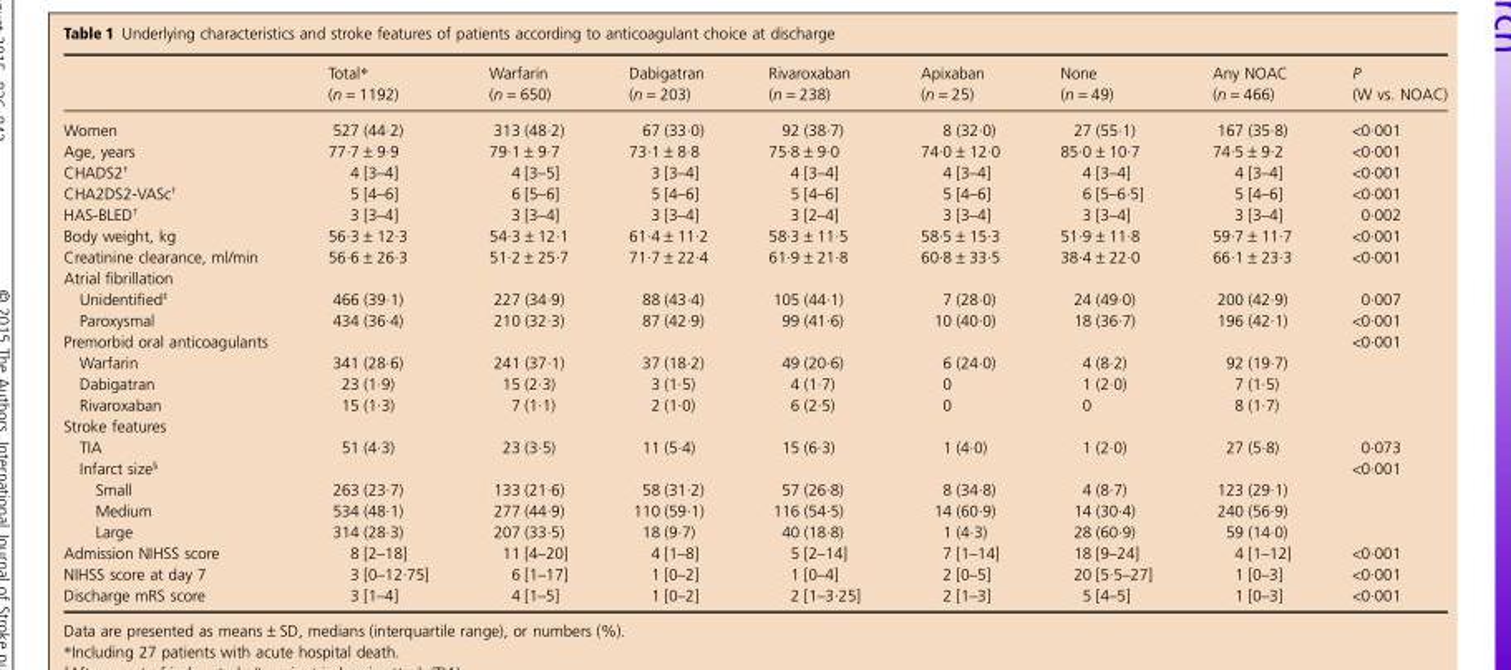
<table><thead><tr><td></td><td>Total* (n = 1192)</td><td>Warfarin (n = 650)</td><td>Dabigatran (n = 203)</td><td>Rivaroxaban (n = 238)</td><td>Apixaban (n = 25)</td><td>None (n = 49)</td><td>Any NOAC (n = 466)</td><td>P (W vs. NOAC)</td></tr></thead><tbody><tr><td>Women</td><td>527 (44·2)</td><td>313 (48·2)</td><td>67 (33·0)</td><td>92 (38·7)</td><td>8 (32·0)</td><td>27 (55·1)</td><td>167 (35·8)</td><td>&lt;0·001</td></tr><tr><td>Age, years</td><td>77·7 ± 9·9</td><td>79·1 ± 9·7</td><td>73·1 ± 8·8</td><td>75·8 ± 9·0</td><td>74·0 ± 12·0</td><td>85·0 ± 10·7</td><td>74·5 ± 9·2</td><td>&lt;0·001</td></tr><tr><td>CHADS2†</td><td>4 [3–4]</td><td>4 [3–5]</td><td>3 [3–4]</td><td>4 [3–4]</td><td>4 [3–4]</td><td>4 [3–4]</td><td>4 [3–4]</td><td>&lt;0·001</td></tr><tr><td>CHA2DS2-VASc†</td><td>5 [4–6]</td><td>6 [5–6]</td><td>5 [4–6]</td><td>5 [4–6]</td><td>5 [4–6]</td><td>6 [5–6·5]</td><td>5 [4–6]</td><td>&lt;0·001</td></tr><tr><td>HAS-BLED†</td><td>3 [3–4]</td><td>3 [3–4]</td><td>3 [3–4]</td><td>3 [2–4]</td><td>3 [3–4]</td><td>3 [3–4]</td><td>3 [3–4]</td><td>0·002</td></tr><tr><td>Body weight, kg</td><td>56·3 ± 12·3</td><td>54·3 ± 12·1</td><td>61·4 ± 11·2</td><td>58·3 ± 11·5</td><td>58·5 ± 15·3</td><td>51·9 ± 11·8</td><td>59·7 ± 11·7</td><td>&lt;0·001</td></tr><tr><td>Creatinine clearance, ml/min</td><td>56·6 ± 26·3</td><td>51·2 ± 25·7</td><td>71·7 ± 22·4</td><td>61·9 ± 21·8</td><td>60·8 ± 33·5</td><td>38·4 ± 22·0</td><td>66·1 ± 23·3</td><td>&lt;0·001</td></tr><tr><td colspan="9">Atrial fibrillation</td></tr><tr><td>Unidentified‡</td><td>466 (39·1)</td><td>227 (34·9)</td><td>88 (43·4)</td><td>105 (44·1)</td><td>7 (28·0)</td><td>24 (49·0)</td><td>200 (42·9)</td><td>0·007</td></tr><tr><td>Paroxysmal</td><td>434 (36·4)</td><td>210 (32·3)</td><td>87 (42·9)</td><td>99 (41·6)</td><td>10 (40·0)</td><td>18 (36·7)</td><td>196 (42·1)</td><td>&lt;0·001</td></tr><tr><td>Premorbid oral anticoagulants</td><td></td><td></td><td></td><td></td><td></td><td></td><td></td><td>&lt;0·001</td></tr><tr><td>Warfarin</td><td>341 (28·6)</td><td>241 (37·1)</td><td>37 (18·2)</td><td>49 (20·6)</td><td>6 (24·0)</td><td>4 (8·2)</td><td>92 (19·7)</td><td></td></tr><tr><td>Dabigatran</td><td>23 (1·9)</td><td>15 (2·3)</td><td>3 (1·5)</td><td>4 (1·7)</td><td>0</td><td>1 (2·0)</td><td>7 (1·5)</td><td></td></tr><tr><td>Rivaroxaban</td><td>15 (1·3)</td><td>7 (1·1)</td><td>2 (1·0)</td><td>6 (2·5)</td><td>0</td><td>0</td><td>8 (1·7)</td><td></td></tr><tr><td colspan="9">Stroke features</td></tr><tr><td>TIA</td><td>51 (4·3)</td><td>23 (3·5)</td><td>11 (5·4)</td><td>15 (6·3)</td><td>1 (4·0)</td><td>1 (2·0)</td><td>27 (5·8)</td><td>0·073</td></tr><tr><td>Infarct size§</td><td></td><td></td><td></td><td></td><td></td><td></td><td></td><td>&lt;0·001</td></tr><tr><td>Small</td><td>263 (23·7)</td><td>133 (21·6)</td><td>58 (31·2)</td><td>57 (26·8)</td><td>8 (34·8)</td><td>4 (8·7)</td><td>123 (29·1)</td><td></td></tr><tr><td>Medium</td><td>534 (48·1)</td><td>277 (44·9)</td><td>110 (59·1)</td><td>116 (54·5)</td><td>14 (60·9)</td><td>14 (30·4)</td><td>240 (56·9)</td><td></td></tr><tr><td>Large</td><td>314 (28·3)</td><td>207 (33·5)</td><td>18 (9·7)</td><td>40 (18·8)</td><td>1 (4·3)</td><td>28 (60·9)</td><td>59 (14·0)</td><td></td></tr><tr><td>Admission NIHSS score</td><td>8 [2–18]</td><td>11 [4–20]</td><td>4 [1–8]</td><td>5 [2–14]</td><td>7 [1–14]</td><td>18 [9–24]</td><td>4 [1–12]</td><td>&lt;0·001</td></tr><tr><td>NIHSS score at day 7</td><td>3 [0–12·75]</td><td>6 [1–17]</td><td>1 [0–2]</td><td>1 [0–4]</td><td>2 [0–5]</td><td>20 [5·5–27]</td><td>1 [0–3]</td><td>&lt;0·001</td></tr><tr><td>Discharge mRS score</td><td>3 [1–4]</td><td>4 [1–5]</td><td>1 [0–2]</td><td>2 [1–3·25]</td><td>2 [1–3]</td><td>5 [4–5]</td><td>1 [0–3]</td><td>&lt;0·001</td></tr></tbody></table>